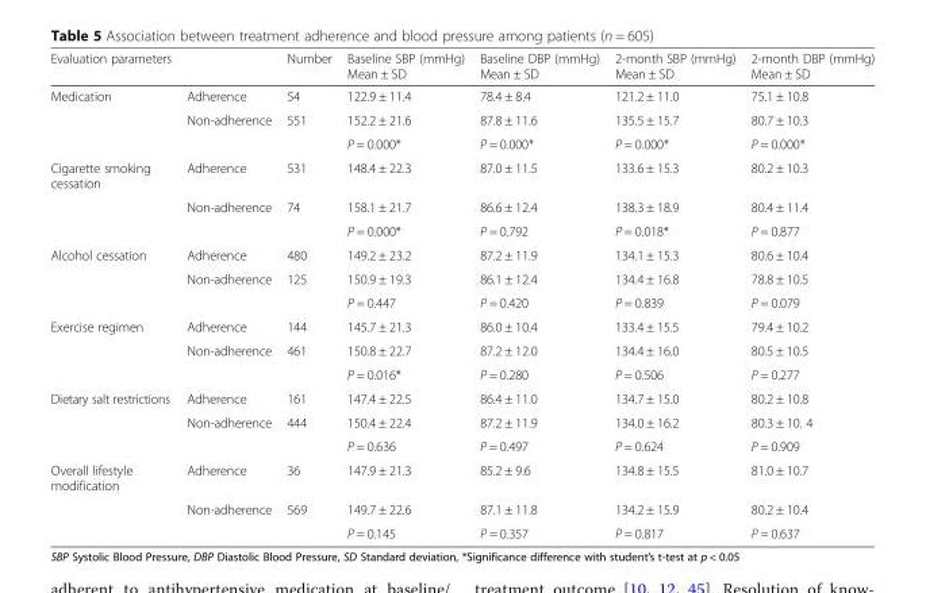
<table><thead><tr><td>Evaluation parameters</td><td></td><td>Number</td><td>Baseline SBP (mmHg) Mean ± SD</td><td>Baseline DBP (mmHg) Mean ± SD</td><td>2-month SBP (mmHg) Mean ± SD</td><td>2-month DBP (mmHg) Mean ± SD</td></tr></thead><tbody><tr><td rowspan="3">Medication</td><td>Adherence</td><td>54</td><td>122.9 ± 11.4</td><td>78.4 ± 8.4</td><td>121.2 ± 11.0</td><td>75.1 ± 10.8</td></tr><tr><td>Non-adherence</td><td>551</td><td>152.2 ± 21.6</td><td>87.8 ± 11.6</td><td>135.5 ± 15.7</td><td>80.7 ± 10.3</td></tr><tr><td></td><td></td><td>P = 0.000*</td><td>P = 0.000*</td><td>P = 0.000*</td><td>P = 0.000*</td></tr><tr><td rowspan="3">Cigarette smoking cessation</td><td>Adherence</td><td>531</td><td>148.4 ± 22.3</td><td>87.0 ± 11.5</td><td>133.6 ± 15.3</td><td>80.2 ± 10.3</td></tr><tr><td>Non-adherence</td><td>74</td><td>158.1 ± 21.7</td><td>86.6 ± 12.4</td><td>138.3 ± 18.9</td><td>80.4 ± 11.4</td></tr><tr><td></td><td></td><td>P = 0.000*</td><td>P = 0.792</td><td>P = 0.018*</td><td>P = 0.877</td></tr><tr><td rowspan="3">Alcohol cessation</td><td>Adherence</td><td>480</td><td>149.2 ± 23.2</td><td>87.2 ± 11.9</td><td>134.1 ± 15.3</td><td>80.6 ± 10.4</td></tr><tr><td>Non-adherence</td><td>125</td><td>150.9 ± 19.3</td><td>86.1 ± 12.4</td><td>134.4 ± 16.8</td><td>78.8 ± 10.5</td></tr><tr><td></td><td></td><td>P = 0.447</td><td>P = 0.420</td><td>P = 0.839</td><td>P = 0.079</td></tr><tr><td rowspan="3">Exercise regimen</td><td>Adherence</td><td>144</td><td>145.7 ± 21.3</td><td>86.0 ± 10.4</td><td>133.4 ± 15.5</td><td>79.4 ± 10.2</td></tr><tr><td>Non-adherence</td><td>461</td><td>150.8 ± 22.7</td><td>87.2 ± 12.0</td><td>134.4 ± 16.0</td><td>80.5 ± 10.5</td></tr><tr><td></td><td></td><td>P = 0.016*</td><td>P = 0.280</td><td>P = 0.506</td><td>P = 0.277</td></tr><tr><td rowspan="3">Dietary salt restrictions</td><td>Adherence</td><td>161</td><td>147.4 ± 22.5</td><td>86.4 ± 11.0</td><td>134.7 ± 15.0</td><td>80.2 ± 10.8</td></tr><tr><td>Non-adherence</td><td>444</td><td>150.4 ± 22.4</td><td>87.2 ± 11.9</td><td>134.0 ± 16.2</td><td>80.3 ± 10. 4</td></tr><tr><td></td><td></td><td>P = 0.636</td><td>P = 0.497</td><td>P = 0.624</td><td>P = 0.909</td></tr><tr><td rowspan="3">Overall lifestyle modification</td><td>Adherence</td><td>36</td><td>147.9 ± 21.3</td><td>85.2 ± 9.6</td><td>134.8 ± 15.5</td><td>81.0 ± 10.7</td></tr><tr><td>Non-adherence</td><td>569</td><td>149.7 ± 22.6</td><td>87.1 ± 11.8</td><td>134.2 ± 15.9</td><td>80.2 ± 10.4</td></tr><tr><td></td><td></td><td>P = 0.145</td><td>P = 0.357</td><td>P = 0.817</td><td>P = 0.637</td></tr></tbody></table>